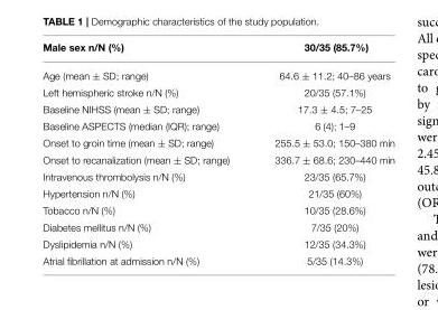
<table><thead><tr><td>Male sex n/N (%)</td><td>30/35 (85.7%)</td></tr></thead><tbody><tr><td>Age (mean ± SD; range)</td><td>64.6 ± 11.2; 40–86 years</td></tr><tr><td>Left hemispheric stroke n/N (%)</td><td>20/35 (57.1%)</td></tr><tr><td>Baseline NIHSS (mean ± SD; range)</td><td>17.3 ± 4.5; 7–25</td></tr><tr><td>Baseline ASPECTS (median (IQR); range)</td><td>6 (4); 1–9</td></tr><tr><td>Onset to groin time (mean ± SD; range)</td><td>255.5 ± 53.0; 150–380 min</td></tr><tr><td>Onset to recanalization (mean ± SD; range)</td><td>336.7 ± 68.6; 230–440 min</td></tr><tr><td>Intravenous thrombolysis n/N (%)</td><td>23/35 (65.7%)</td></tr><tr><td>Hypertension n/N (%)</td><td>21/35 (60%)</td></tr><tr><td>Tobacco n/N (%)</td><td>10/35 (28.6%)</td></tr><tr><td>Diabetes mellitus n/N (%)</td><td>7/35 (20%)</td></tr><tr><td>Dyslipidemia n/N (%)</td><td>12/35 (34.3%)</td></tr><tr><td>Atrial fibrillation at admission n/N (%)</td><td>5/35 (14.3%)</td></tr></tbody></table>